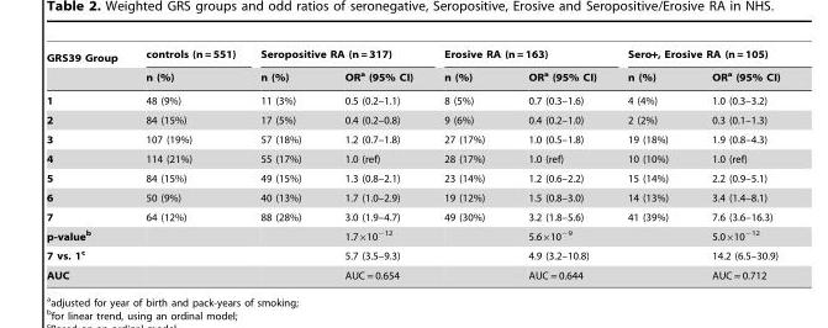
<table><thead><tr><td rowspan="2">GRS39 Group</td><td rowspan="2">controls (n = 551) n (%)</td><td colspan="2">Seropositive RA (n = 317)</td><td colspan="2">Erosive RA (n = 163)</td><td colspan="2">Sero+, Erosive RA (n = 105)</td></tr><tr><td>n (%)</td><td>OR<sup>a</sup> (95% CI)</td><td>n (%)</td><td>OR<sup>a</sup> (95% CI)</td><td>n (%)</td><td>OR<sup>a</sup> (95% CI)</td></tr></thead><tbody><tr><td>1</td><td>48 (9%)</td><td>11 (3%)</td><td>0.5 (0.2–1.1)</td><td>8 (5%)</td><td>0.7 (0.3–1.6)</td><td>4 (4%)</td><td>1.0 (0.3–3.2)</td></tr><tr><td>2</td><td>84 (15%)</td><td>17 (5%)</td><td>0.4 (0.2–0.8)</td><td>9 (6%)</td><td>0.4 (0.2–1.0)</td><td>2 (2%)</td><td>0.3 (0.1–1.3)</td></tr><tr><td>3</td><td>107 (19%)</td><td>57 (18%)</td><td>1.2 (0.7–1.8)</td><td>27 (17%)</td><td>1.0 (0.5–1.8)</td><td>19 (18%)</td><td>1.9 (0.8–4.3)</td></tr><tr><td>4</td><td>114 (21%)</td><td>55 (17%)</td><td>1.0 (ref)</td><td>28 (17%)</td><td>1.0 (ref)</td><td>10 (10%)</td><td>1.0 (ref)</td></tr><tr><td>5</td><td>84 (15%)</td><td>49 (15%)</td><td>1.3 (0.8–2.1)</td><td>23 (14%)</td><td>1.2 (0.6–2.2)</td><td>15 (14%)</td><td>2.2 (0.9–5.1)</td></tr><tr><td>6</td><td>50 (9%)</td><td>40 (13%)</td><td>1.7 (1.0–2.9)</td><td>19 (12%)</td><td>1.5 (0.8–3.0)</td><td>14 (13%)</td><td>3.4 (1.4–8.1)</td></tr><tr><td>7</td><td>64 (12%)</td><td>88 (28%)</td><td>3.0 (1.9–4.7)</td><td>49 (30%)</td><td>3.2 (1.8–5.6)</td><td>41 (39%)</td><td>7.6 (3.6–16.3)</td></tr><tr><td>p-valueb</td><td></td><td></td><td>1.7×10<sup>−12</sup></td><td></td><td>5.6×10<sup>−9</sup></td><td></td><td>5.0×10<sup>−12</sup></td></tr><tr><td>7 vs. 1c</td><td></td><td></td><td>5.7 (3.5–9.3)</td><td></td><td>4.9 (3.2–10.8)</td><td></td><td>14.2 (6.5–30.9)</td></tr><tr><td>AUC</td><td></td><td></td><td>AUC = 0.654</td><td></td><td>AUC = 0.644</td><td></td><td>AUC = 0.712</td></tr></tbody></table>